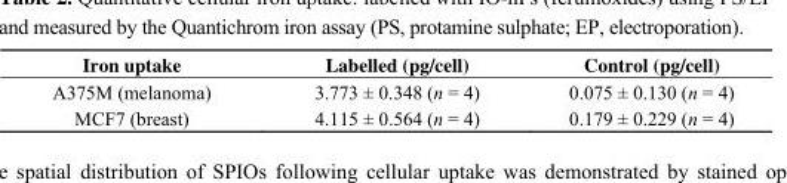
<table><thead><tr><td>Iron uptake</td><td>Labelled (pg/cell)</td><td>Control (pg/cell)</td></tr></thead><tbody><tr><td>A375M (melanoma)</td><td>3.773 ± 0.348 (n = 4)</td><td>0.075 ± 0.130 (n = 4)</td></tr><tr><td>MCF7 (breast)</td><td>4.115 ± 0.564 (n = 4)</td><td>0.179 ± 0.229 (n = 4)</td></tr></tbody></table>